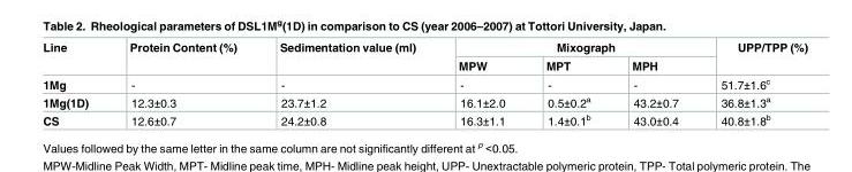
<table><thead><tr><td rowspan="2">Line</td><td rowspan="2">Protein Content (%)</td><td rowspan="2">Sedimentation value (ml)</td><td colspan="3">Mixograph</td><td rowspan="2">UPP/TPP (%)</td></tr><tr><td>MPW</td><td>MPT</td><td>MPH</td></tr></thead><tbody><tr><td>1Mg</td><td>-</td><td>-</td><td>-</td><td>-</td><td>-</td><td>51.7±1.6<sup>c</sup></td></tr><tr><td>1Mg(1D)</td><td>12.3±0.3</td><td>23.7±1.2</td><td>16.1±2.0</td><td>0.5±0.2<sup>a</sup></td><td>43.2±0.7</td><td>36.8±1.3<sup>a</sup></td></tr><tr><td>CS</td><td>12.6±0.7</td><td>24.2±0.8</td><td>16.3±1.1</td><td>1.4±0.1<sup>b</sup></td><td>43.0±0.4</td><td>40.8±1.8<sup>b</sup></td></tr></tbody></table>